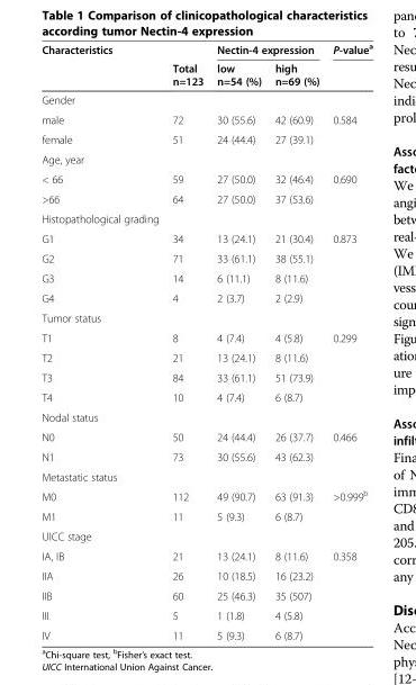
<table><thead><tr><td rowspan="2">Characteristics</td><td rowspan="2">Total n=123</td><td colspan="2">Nectin-4 expression</td><td rowspan="2">P-value<sup>a</sup></td></tr><tr><td>low n=54 (%)</td><td>high n=69 (%)</td></tr></thead><tbody><tr><td colspan="5">Gender</td></tr><tr><td>male</td><td>72</td><td>30 (55.6)</td><td>42 (60.9)</td><td>0.584</td></tr><tr><td>female</td><td>51</td><td>24 (44.4)</td><td>27 (39.1)</td><td></td></tr><tr><td colspan="5">Age, year</td></tr><tr><td>&lt; 66</td><td>59</td><td>27 (50.0)</td><td>32 (46.4)</td><td>0.690</td></tr><tr><td>&gt;66</td><td>64</td><td>27 (50.0)</td><td>37 (53.6)</td><td></td></tr><tr><td colspan="5">Histopathological grading</td></tr><tr><td>G1</td><td>34</td><td>13 (24.1)</td><td>21 (30.4)</td><td>0.873</td></tr><tr><td>G2</td><td>71</td><td>33 (61.1)</td><td>38 (55.1)</td><td></td></tr><tr><td>G3</td><td>14</td><td>6 (11.1)</td><td>8 (11.6)</td><td></td></tr><tr><td>G4</td><td>4</td><td>2 (3.7)</td><td>2 (2.9)</td><td></td></tr><tr><td colspan="5">Tumor status</td></tr><tr><td>T1</td><td>8</td><td>4 (7.4)</td><td>4 (5.8)</td><td>0.299</td></tr><tr><td>T2</td><td>21</td><td>13 (24.1)</td><td>8 (11.6)</td><td></td></tr><tr><td>T3</td><td>84</td><td>33 (61.1)</td><td>51 (73.9)</td><td></td></tr><tr><td>T4</td><td>10</td><td>4 (7.4)</td><td>6 (8.7)</td><td></td></tr><tr><td colspan="5">Nodal status</td></tr><tr><td>N0</td><td>50</td><td>24 (44.4)</td><td>26 (37.7)</td><td>0.466</td></tr><tr><td>N1</td><td>73</td><td>30 (55.6)</td><td>43 (62.3)</td><td></td></tr><tr><td colspan="5">Metastatic status</td></tr><tr><td>M0</td><td>112</td><td>49 (90.7)</td><td>63 (91.3)</td><td>&gt;0.999<sup>b</sup></td></tr><tr><td>M1</td><td>11</td><td>5 (9.3)</td><td>6 (8.7)</td><td></td></tr><tr><td colspan="5">UICC stage</td></tr><tr><td>IA, IB</td><td>21</td><td>13 (24.1)</td><td>8 (11.6)</td><td>0.358</td></tr><tr><td>IIA</td><td>26</td><td>10 (18.5)</td><td>16 (23.2)</td><td></td></tr><tr><td>IIB</td><td>60</td><td>25 (46.3)</td><td>35 (507)</td><td></td></tr><tr><td>III</td><td>5</td><td>1 (1.8)</td><td>4 (5.8)</td><td></td></tr><tr><td>IV</td><td>11</td><td>5 (9.3)</td><td>6 (8.7)</td><td></td></tr></tbody></table>